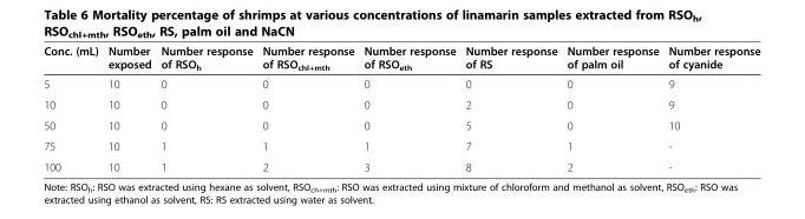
<table><thead><tr><td>Conc. (mL)</td><td>Number exposed</td><td>Number response of RSO<sub>h</sub></td><td>Number response of RSO<sub>chl+mth</sub></td><td>Number response of RSO<sub>eth</sub></td><td>Number response of RS</td><td>Number response of palm oil</td><td>Number response of cyanide</td></tr></thead><tbody><tr><td>5</td><td>10</td><td>0</td><td>0</td><td>0</td><td>0</td><td>0</td><td>9</td></tr><tr><td>10</td><td>10</td><td>0</td><td>0</td><td>0</td><td>2</td><td>0</td><td>9</td></tr><tr><td>50</td><td>10</td><td>0</td><td>0</td><td>0</td><td>5</td><td>0</td><td>10</td></tr><tr><td>75</td><td>10</td><td>1</td><td>1</td><td>1</td><td>7</td><td>1</td><td>-</td></tr><tr><td>100</td><td>10</td><td>1</td><td>2</td><td>3</td><td>8</td><td>2</td><td>-</td></tr></tbody></table>